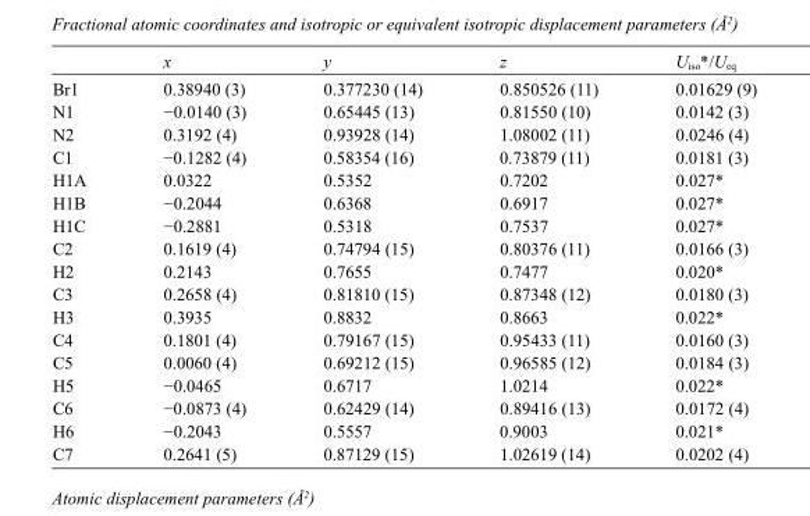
<table><thead><tr><td></td><td>x</td><td>y</td><td>z</td><td>U<sub>iso</sub>*/U<sub>eq</sub></td></tr></thead><tbody><tr><td>Br1</td><td>0.38940 (3)</td><td>0.377230 (14)</td><td>0.850526 (11)</td><td>0.01629 (9)</td></tr><tr><td>N1</td><td>−0.0140 (3)</td><td>0.65445 (13)</td><td>0.81550 (10)</td><td>0.0142 (3)</td></tr><tr><td>N2</td><td>0.3192 (4)</td><td>0.93928 (14)</td><td>1.08002 (11)</td><td>0.0246 (4)</td></tr><tr><td>C1</td><td>−0.1282 (4)</td><td>0.58354 (16)</td><td>0.73879 (11)</td><td>0.0181 (3)</td></tr><tr><td>H1A</td><td>0.0322</td><td>0.5352</td><td>0.7202</td><td>0.027*</td></tr><tr><td>H1B</td><td>−0.2044</td><td>0.6368</td><td>0.6917</td><td>0.027*</td></tr><tr><td>H1C</td><td>−0.2881</td><td>0.5318</td><td>0.7537</td><td>0.027*</td></tr><tr><td>C2</td><td>0.1619 (4)</td><td>0.74794 (15)</td><td>0.80376 (11)</td><td>0.0166 (3)</td></tr><tr><td>H2</td><td>0.2143</td><td>0.7655</td><td>0.7477</td><td>0.020*</td></tr><tr><td>C3</td><td>0.2658 (4)</td><td>0.81810 (15)</td><td>0.87348 (12)</td><td>0.0180 (3)</td></tr><tr><td>H3</td><td>0.3935</td><td>0.8832</td><td>0.8663</td><td>0.022*</td></tr><tr><td>C4</td><td>0.1801 (4)</td><td>0.79167 (15)</td><td>0.95433 (11)</td><td>0.0160 (3)</td></tr><tr><td>C5</td><td>0.0060 (4)</td><td>0.69212 (15)</td><td>0.96585 (12)</td><td>0.0184 (3)</td></tr><tr><td>H5</td><td>−0.0465</td><td>0.6717</td><td>1.0214</td><td>0.022*</td></tr><tr><td>C6</td><td>−0.0873 (4)</td><td>0.62429 (14)</td><td>0.89416 (13)</td><td>0.0172 (4)</td></tr><tr><td>H6</td><td>−0.2043</td><td>0.5557</td><td>0.9003</td><td>0.021*</td></tr><tr><td>C7</td><td>0.2641 (5)</td><td>0.87129 (15)</td><td>1.02619 (14)</td><td>0.0202 (4)</td></tr></tbody></table>